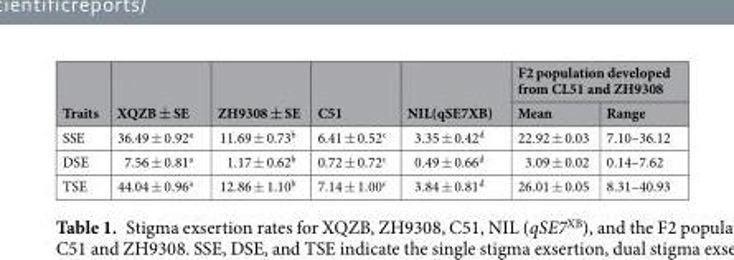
<table><thead><tr><td rowspan="2">Traits</td><td rowspan="2">XQZB ± SE</td><td rowspan="2">ZH9308 ± SE</td><td rowspan="2">C51</td><td rowspan="2">NIL(qSE7XB)</td><td colspan="2">F2 population developed from CL51 and ZH9308</td></tr><tr><td>Mean</td><td>Range</td></tr></thead><tbody><tr><td>SSE</td><td>36.49 ± 0.92<sup>a</sup></td><td>11.69 ± 0.73<sup>b</sup></td><td>6.41 ± 0.52<sup>c</sup></td><td>3.35 ± 0.42<sup>d</sup></td><td>22.92 ± 0.03</td><td>7.10–36.12</td></tr><tr><td>DSE</td><td>7.56 ± 0.81<sup>a</sup></td><td>1.17 ± 0.62<sup>b</sup></td><td>0.72 ± 0.72<sup>c</sup></td><td>0.49 ± 0.66<sup>d</sup></td><td>3.09 ± 0.02</td><td>0.14–7.62</td></tr><tr><td>TSE</td><td>44.04 ± 0.96<sup>a</sup></td><td>12.86 ± 1.10<sup>b</sup></td><td>7.14 ± 1.00<sup>c</sup></td><td>3.84 ± 0.81<sup>d</sup></td><td>26.01 ± 0.05</td><td>8.31–40.93</td></tr></tbody></table>